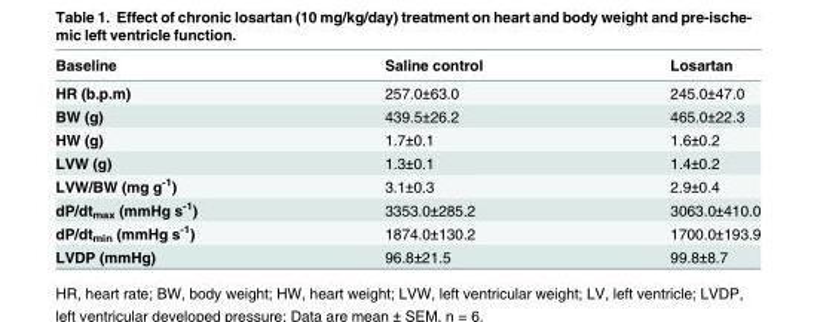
<table><thead><tr><td>Baseline</td><td>Saline control</td><td>Losartan</td></tr></thead><tbody><tr><td>HR (b.p.m)</td><td>257.0±63.0</td><td>245.0±47.0</td></tr><tr><td>BW (g)</td><td>439.5±26.2</td><td>465.0±22.3</td></tr><tr><td>HW (g)</td><td>1.7±0.1</td><td>1.6±0.2</td></tr><tr><td>LVW (g)</td><td>1.3±0.1</td><td>1.4±0.2</td></tr><tr><td>LVW/BW (mg g<sup>-1</sup>)</td><td>3.1±0.3</td><td>2.9±0.4</td></tr><tr><td>dP/dt<sub>max</sub> (mmHg s<sup>-1</sup>)</td><td>3353.0±285.2</td><td>3063.0±410.0</td></tr><tr><td>dP/dt<sub>min</sub> (mmHg s<sup>-1</sup>)</td><td>1874.0±130.2</td><td>1700.0±193.9</td></tr><tr><td>LVDP (mmHg)</td><td>96.8±21.5</td><td>99.8±8.7</td></tr></tbody></table>